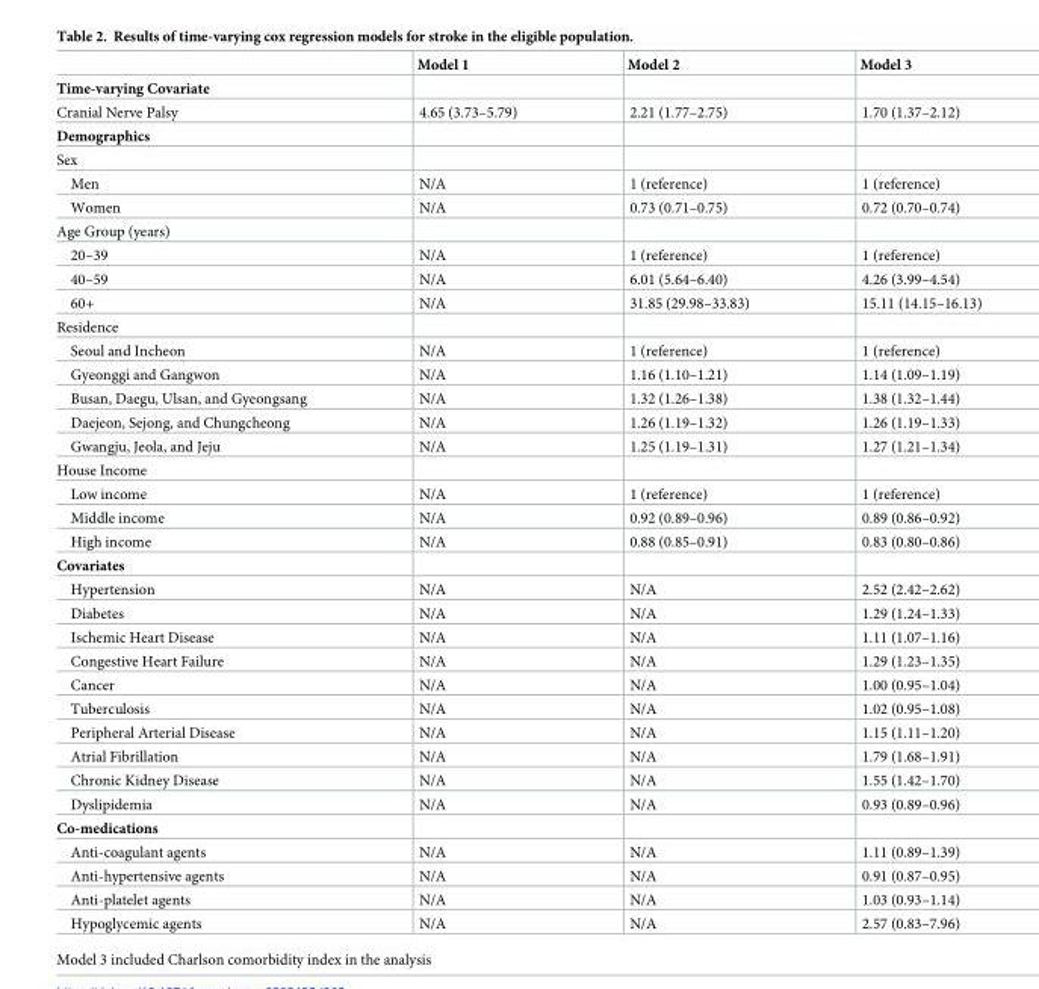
<table><thead><tr><td></td><td>Model 1</td><td>Model 2</td><td>Model 3</td></tr></thead><tbody><tr><td colspan="4">Time-varying Covariate</td></tr><tr><td>Cranial Nerve Palsy</td><td>4.65 (3.73–5.79)</td><td>2.21 (1.77–2.75)</td><td>1.70 (1.37–2.12)</td></tr><tr><td colspan="4">Demographics</td></tr><tr><td colspan="4">Sex</td></tr><tr><td>Men</td><td>N/A</td><td>1 (reference)</td><td>1 (reference)</td></tr><tr><td>Women</td><td>N/A</td><td>0.73 (0.71–0.75)</td><td>0.72 (0.70–0.74)</td></tr><tr><td colspan="4">Age Group (years)</td></tr><tr><td>20–39</td><td>N/A</td><td>1 (reference)</td><td>1 (reference)</td></tr><tr><td>40–59</td><td>N/A</td><td>6.01 (5.64–6.40)</td><td>4.26 (3.99–4.54)</td></tr><tr><td>60+</td><td>N/A</td><td>31.85 (29.98–33.83)</td><td>15.11 (14.15–16.13)</td></tr><tr><td colspan="4">Residence</td></tr><tr><td>Seoul and Incheon</td><td>N/A</td><td>1 (reference)</td><td>1 (reference)</td></tr><tr><td>Gyeonggi and Gangwon</td><td>N/A</td><td>1.16 (1.10–1.21)</td><td>1.14 (1.09–1.19)</td></tr><tr><td>Busan, Daegu, Ulsan, and Gyeongsang</td><td>N/A</td><td>1.32 (1.26–1.38)</td><td>1.38 (1.32–1.44)</td></tr><tr><td>Daejeon, Sejong, and Chungcheong</td><td>N/A</td><td>1.26 (1.19–1.32)</td><td>1.26 (1.19–1.33)</td></tr><tr><td>Gwangju, Jeola, and Jeju</td><td>N/A</td><td>1.25 (1.19–1.31)</td><td>1.27 (1.21–1.34)</td></tr><tr><td colspan="4">House Income</td></tr><tr><td>Low income</td><td>N/A</td><td>1 (reference)</td><td>1 (reference)</td></tr><tr><td>Middle income</td><td>N/A</td><td>0.92 (0.89–0.96)</td><td>0.89 (0.86–0.92)</td></tr><tr><td>High income</td><td>N/A</td><td>0.88 (0.85–0.91)</td><td>0.83 (0.80–0.86)</td></tr><tr><td colspan="4">Covariates</td></tr><tr><td>Hypertension</td><td>N/A</td><td>N/A</td><td>2.52 (2.42–2.62)</td></tr><tr><td>Diabetes</td><td>N/A</td><td>N/A</td><td>1.29 (1.24–1.33)</td></tr><tr><td>Ischemic Heart Disease</td><td>N/A</td><td>N/A</td><td>1.11 (1.07–1.16)</td></tr><tr><td>Congestive Heart Failure</td><td>N/A</td><td>N/A</td><td>1.29 (1.23–1.35)</td></tr><tr><td>Cancer</td><td>N/A</td><td>N/A</td><td>1.00 (0.95–1.04)</td></tr><tr><td>Tuberculosis</td><td>N/A</td><td>N/A</td><td>1.02 (0.95–1.08)</td></tr><tr><td>Peripheral Arterial Disease</td><td>N/A</td><td>N/A</td><td>1.15 (1.11–1.20)</td></tr><tr><td>Atrial Fibrillation</td><td>N/A</td><td>N/A</td><td>1.79 (1.68–1.91)</td></tr><tr><td>Chronic Kidney Disease</td><td>N/A</td><td>N/A</td><td>1.55 (1.42–1.70)</td></tr><tr><td>Dyslipidemia</td><td>N/A</td><td>N/A</td><td>0.93 (0.89–0.96)</td></tr><tr><td colspan="4">Co-medications</td></tr><tr><td>Anti-coagulant agents</td><td>N/A</td><td>N/A</td><td>1.11 (0.89–1.39)</td></tr><tr><td>Anti-hypertensive agents</td><td>N/A</td><td>N/A</td><td>0.91 (0.87–0.95)</td></tr><tr><td>Anti-platelet agents</td><td>N/A</td><td>N/A</td><td>1.03 (0.93–1.14)</td></tr><tr><td>Hypoglycemic agents</td><td>N/A</td><td>N/A</td><td>2.57 (0.83–7.96)</td></tr></tbody></table>